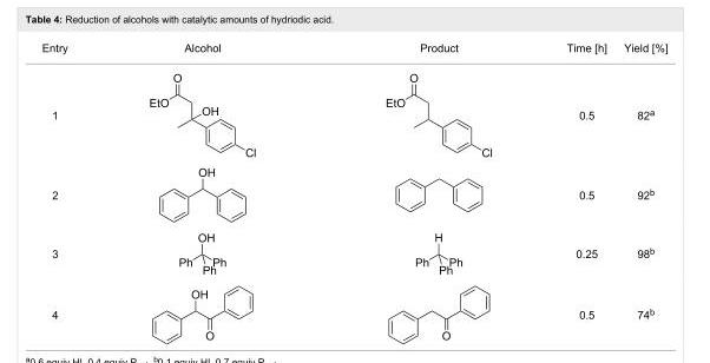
<table><tbody><tr><td>Entry</td><td>Alcohol</td><td>Product</td><td>Time [h]</td><td>Yield [%]</td></tr><tr><td>1</td><td></td><td></td><td>0.5</td><td>82<sup>a</sup></td></tr><tr><td>2</td><td></td><td></td><td>0.5</td><td>92<sup>b</sup></td></tr><tr><td>3</td><td></td><td></td><td>0.25</td><td>98<sup>b</sup></td></tr><tr><td>4</td><td></td><td></td><td>0.5</td><td>74<sup>b</sup></td></tr></tbody></table>